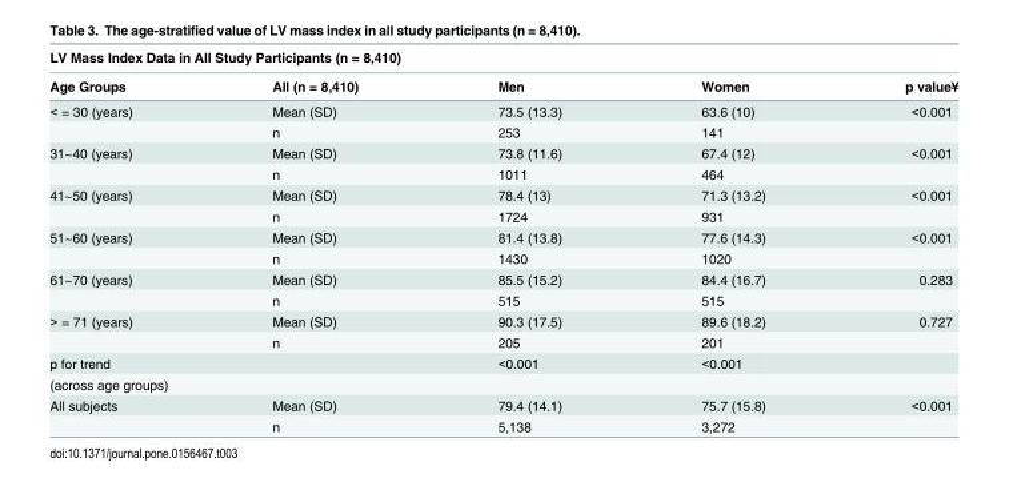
<table><thead><tr><td colspan="5">LV Mass Index Data in All Study Participants (n = 8,410)</td></tr><tr><td>Age Groups</td><td>All (n = 8,410)</td><td>Men</td><td>Women</td><td>p value¥</td></tr></thead><tbody><tr><td rowspan="2">&lt; = 30 (years)</td><td>Mean (SD)</td><td>73.5 (13.3)</td><td>63.6 (10)</td><td>&lt;0.001</td></tr><tr><td>n</td><td>253</td><td>141</td><td></td></tr><tr><td rowspan="2">31~40 (years)</td><td>Mean (SD)</td><td>73.8 (11.6)</td><td>67.4 (12)</td><td>&lt;0.001</td></tr><tr><td>n</td><td>1011</td><td>464</td><td></td></tr><tr><td rowspan="2">41~50 (years)</td><td>Mean (SD)</td><td>78.4 (13)</td><td>71.3 (13.2)</td><td>&lt;0.001</td></tr><tr><td>n</td><td>1724</td><td>931</td><td></td></tr><tr><td rowspan="2">51~60 (years)</td><td>Mean (SD)</td><td>81.4 (13.8)</td><td>77.6 (14.3)</td><td>&lt;0.001</td></tr><tr><td>n</td><td>1430</td><td>1020</td><td></td></tr><tr><td rowspan="2">61~70 (years)</td><td>Mean (SD)</td><td>85.5 (15.2)</td><td>84.4 (16.7)</td><td>0.283</td></tr><tr><td>n</td><td>515</td><td>515</td><td></td></tr><tr><td rowspan="2">&gt; = 71 (years)</td><td>Mean (SD)</td><td>90.3 (17.5)</td><td>89.6 (18.2)</td><td>0.727</td></tr><tr><td>n</td><td>205</td><td>201</td><td></td></tr><tr><td>p for trend</td><td></td><td>&lt;0.001</td><td>&lt;0.001</td><td></td></tr><tr><td colspan="5">(across age groups)</td></tr><tr><td rowspan="2">All subjects</td><td>Mean (SD)</td><td>79.4 (14.1)</td><td>75.7 (15.8)</td><td>&lt;0.001</td></tr><tr><td>n</td><td>5,138</td><td>3,272</td><td></td></tr></tbody></table>